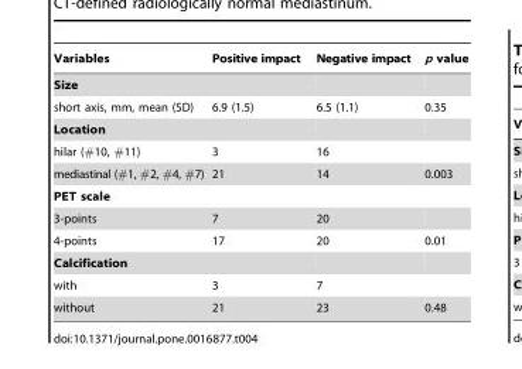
<table><thead><tr><td>Variables</td><td>Positive impact</td><td>Negative impact</td><td>p value</td></tr></thead><tbody><tr><td colspan="4">Size</td></tr><tr><td>short axis, mm, mean (SD)</td><td>6.9 (1.5)</td><td>6.5 (1.1)</td><td>0.35</td></tr><tr><td colspan="4">Location</td></tr><tr><td>hilar (#10, #11)</td><td>3</td><td>16</td><td></td></tr><tr><td>mediastinal (#1, #2, #4, #7)</td><td>21</td><td>14</td><td>0.003</td></tr><tr><td colspan="4">PET scale</td></tr><tr><td>3-points</td><td>7</td><td>20</td><td></td></tr><tr><td>4-points</td><td>17</td><td>20</td><td>0.01</td></tr><tr><td colspan="4">Calcification</td></tr><tr><td>with</td><td>3</td><td>7</td><td></td></tr><tr><td>without</td><td>21</td><td>23</td><td>0.48</td></tr></tbody></table>